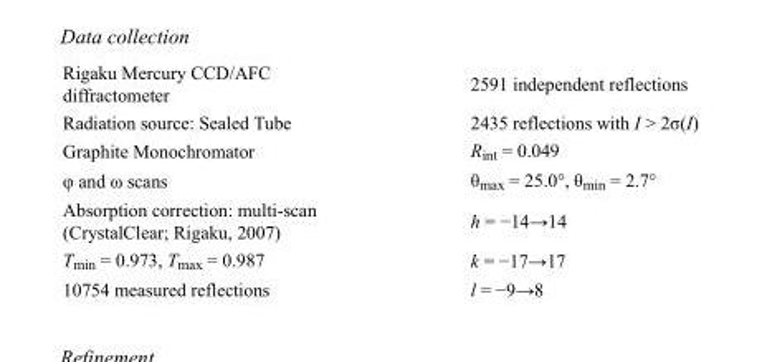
<table><tbody><tr><td>Rigaku Mercury CCD/AFC diffractometer</td><td>2591 independent reflections</td></tr><tr><td>Radiation source: Sealed Tube</td><td>2435 reflections with I &gt; 2σ(I)</td></tr><tr><td>Graphite Monochromator</td><td>R<sub>int</sub> = 0.049</td></tr><tr><td>φ and ω scans</td><td>θ<sub>max</sub> = 25.0°, θ<sub>min</sub> = 2.7°</td></tr><tr><td>Absorption correction: multi-scan (CrystalClear; Rigaku, 2007)</td><td>h = −14→14</td></tr><tr><td>T<sub>min</sub> = 0.973, T<sub>max</sub> = 0.987</td><td>k = −17→17</td></tr><tr><td>10754 measured reflections</td><td>l = −9→8</td></tr></tbody></table>